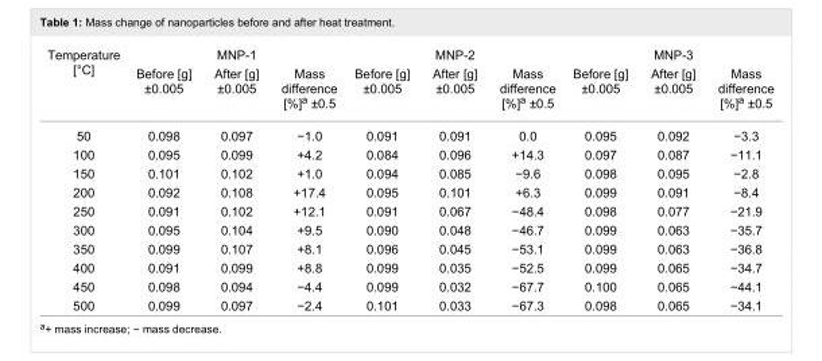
<table><tbody><tr><td rowspan="2">Temperature [°C]</td><td colspan="3">MNP-1</td><td colspan="3">MNP-2</td><td colspan="3">MNP-3</td></tr><tr><td>Before [g] ±0.005</td><td>After [g] ±0.005</td><td>Mass difference [%]<sup>a</sup> ±0.5</td><td>Before [g] ±0.005</td><td>After [g] ±0.005</td><td>Mass difference [%]<sup>a</sup> ±0.5</td><td>Before [g] ±0.005</td><td>After [g] ±0.005</td><td>Mass difference [%]<sup>a</sup> ±0.5</td></tr><tr><td>50</td><td>0.098</td><td>0.097</td><td>−1.0</td><td>0.091</td><td>0.091</td><td>0.0</td><td>0.095</td><td>0.092</td><td>−3.3</td></tr><tr><td>100</td><td>0.095</td><td>0.099</td><td>+4.2</td><td>0.084</td><td>0.096</td><td>+14.3</td><td>0.097</td><td>0.087</td><td>−11.1</td></tr><tr><td>150</td><td>0.101</td><td>0.102</td><td>+1.0</td><td>0.094</td><td>0.085</td><td>−9.6</td><td>0.098</td><td>0.095</td><td>−2.8</td></tr><tr><td>200</td><td>0.092</td><td>0.108</td><td>+17.4</td><td>0.095</td><td>0.101</td><td>+6.3</td><td>0.099</td><td>0.091</td><td>−8.4</td></tr><tr><td>250</td><td>0.091</td><td>0.102</td><td>+12.1</td><td>0.091</td><td>0.067</td><td>−48.4</td><td>0.098</td><td>0.077</td><td>−21.9</td></tr><tr><td>300</td><td>0.095</td><td>0.104</td><td>+9.5</td><td>0.090</td><td>0.048</td><td>−46.7</td><td>0.099</td><td>0.063</td><td>−35.7</td></tr><tr><td>350</td><td>0.099</td><td>0.107</td><td>+8.1</td><td>0.096</td><td>0.045</td><td>−53.1</td><td>0.099</td><td>0.063</td><td>−36.8</td></tr><tr><td>400</td><td>0.091</td><td>0.099</td><td>+8.8</td><td>0.099</td><td>0.035</td><td>−52.5</td><td>0.099</td><td>0.065</td><td>−34.7</td></tr><tr><td>450</td><td>0.098</td><td>0.094</td><td>−4.4</td><td>0.099</td><td>0.032</td><td>−67.7</td><td>0.100</td><td>0.065</td><td>−44.1</td></tr><tr><td>500</td><td>0.099</td><td>0.097</td><td>−2.4</td><td>0.101</td><td>0.033</td><td>−67.3</td><td>0.098</td><td>0.065</td><td>−34.1</td></tr></tbody></table>